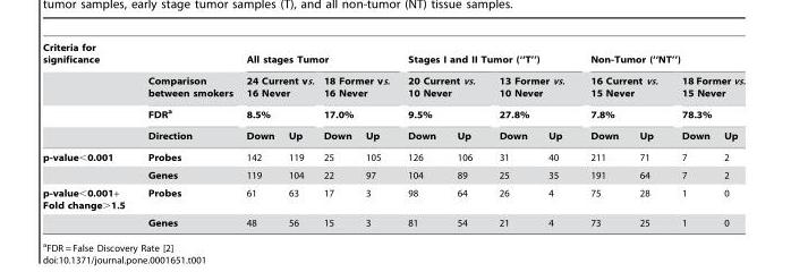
<table><thead><tr><td rowspan="4">Criteria for significance</td><td rowspan="4">Comparison between smokers FDR<sup>a</sup> Direction</td><td colspan="4">All stages Tumor</td><td colspan="4">Stages I and II Tumor (‘‘T’’)</td><td colspan="4">Non-Tumor (‘‘NT’’)</td></tr><tr><td rowspan="2" colspan="2">24 Current vs. 16 Never 8.5%</td><td rowspan="2" colspan="2">18 Former vs. 16 Never 17.0%</td><td rowspan="2" colspan="2">20 Current vs. 10 Never 9.5%</td><td rowspan="2" colspan="2">13 Former vs. 10 Never 27.8%</td><td rowspan="2" colspan="2">16 Current vs. 15 Never 7.8%</td><td rowspan="2" colspan="2">18 Former vs. 15 Never 78.3%</td></tr><tr></tr><tr><td>Down</td><td>Up</td><td>Down</td><td>Up</td><td>Down</td><td>Up</td><td>Down</td><td>Up</td><td>Down</td><td>Up</td><td>Down</td><td>Up</td></tr></thead><tbody><tr><td rowspan="2">p-value&lt;0.001</td><td>Probes</td><td>142</td><td>119</td><td>25</td><td>105</td><td>126</td><td>106</td><td>31</td><td>40</td><td>211</td><td>71</td><td>7</td><td>2</td></tr><tr><td>Genes</td><td>119</td><td>104</td><td>22</td><td>97</td><td>104</td><td>89</td><td>25</td><td>35</td><td>191</td><td>64</td><td>7</td><td>2</td></tr><tr><td rowspan="2">p-value&lt;0.001+ Fold change&gt;1.5</td><td>Probes</td><td>61</td><td>63</td><td>17</td><td>3</td><td>98</td><td>64</td><td>26</td><td>4</td><td>75</td><td>28</td><td>1</td><td>0</td></tr><tr><td>Genes</td><td>48</td><td>56</td><td>15</td><td>3</td><td>81</td><td>54</td><td>21</td><td>4</td><td>73</td><td>25</td><td>1</td><td>0</td></tr></tbody></table>